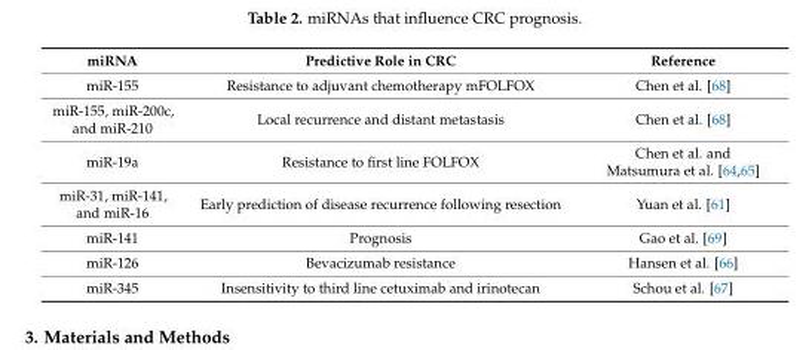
<table><thead><tr><td>miRNA</td><td>Predictive Role in CRC</td><td>Reference</td></tr></thead><tbody><tr><td>miR-155</td><td>Resistance to adjuvant chemotherapy mFOLFOX</td><td>Chen et al. [68]</td></tr><tr><td>miR-155, miR-200c, and miR-210</td><td>Local recurrence and distant metastasis</td><td>Chen et al. [68]</td></tr><tr><td>miR-19a</td><td>Resistance to first line FOLFOX</td><td>Chen et al. and Matsumura et al. [64,65]</td></tr><tr><td>miR-31, miR-141, and miR-16</td><td>Early prediction of disease recurrence following resection</td><td>Yuan et al. [61]</td></tr><tr><td>miR-141</td><td>Prognosis</td><td>Gao et al. [69]</td></tr><tr><td>miR-126</td><td>Bevacizumab resistance</td><td>Hansen et al. [66]</td></tr><tr><td>miR-345</td><td>Insensitivity to third line cetuximab and irinotecan</td><td>Schou et al. [67]</td></tr></tbody></table>